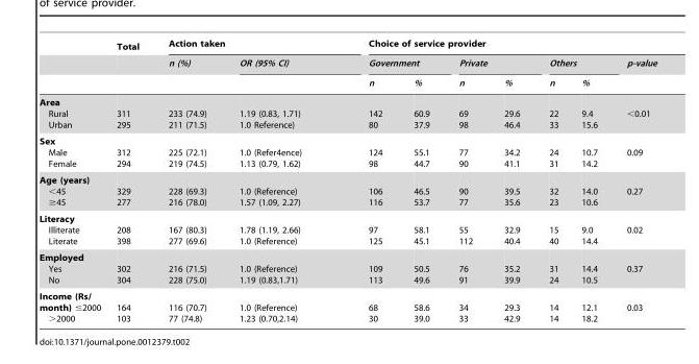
<table><thead><tr><td rowspan="3"></td><td rowspan="3">Total</td><td colspan="2">Action taken</td><td colspan="7">Choice of service provider</td></tr><tr><td rowspan="2">n (%)</td><td rowspan="2">OR (95% CI)</td><td colspan="2">Government</td><td colspan="2">Private</td><td colspan="2">Others</td><td rowspan="2">p-value</td></tr><tr><td>n</td><td>%</td><td>n</td><td>%</td><td>n</td><td>%</td></tr></thead><tbody><tr><td>Area Rural Urban</td><td>311 295</td><td>233 (74.9) 211 (71.5)</td><td>1.19 (0.83, 1.71) 1.0 Reference)</td><td>142 80</td><td>60.9 37.9</td><td>69 98</td><td>29.6 46.4</td><td>22 33</td><td>9.4 15.6</td><td>&lt;0.01</td></tr><tr><td>Sex Male Female</td><td>312 294</td><td>225 (72.1) 219 (74.5)</td><td>1.0 (Refer4ence) 1.13 (0.79, 1.62)</td><td>124 98</td><td>55.1 44.7</td><td>77 90</td><td>34.2 41.1</td><td>24 31</td><td>10.7 14.2</td><td>0.09</td></tr><tr><td>Age (years) &lt;45 ≥45</td><td>329 277</td><td>228 (69.3) 216 (78.0)</td><td>1.0 (Reference) 1.57 (1.09, 2.27)</td><td>106 116</td><td>46.5 53.7</td><td>90 77</td><td>39.5 35.6</td><td>32 23</td><td>14.0 10.6</td><td>0.27</td></tr><tr><td>Literacy Illiterate Literate</td><td>208 398</td><td>167 (80.3) 277 (69.6)</td><td>1.78 (1.19, 2.66) 1.0 (Reference)</td><td>97 125</td><td>58.1 45.1</td><td>55 112</td><td>32.9 40.4</td><td>15 40</td><td>9.0 14.4</td><td>0.02</td></tr><tr><td>Employed Yes No</td><td>302 304</td><td>216 (71.5) 228 (75.0)</td><td>1.0 (Reference) 1.19 (0.83,1.71)</td><td>109 113</td><td>50.5 49.6</td><td>76 91</td><td>35.2 39.9</td><td>31 24</td><td>14.4 10.5</td><td>0.37</td></tr><tr><td>Income (Rs/ month) ≤2000 &gt;2000</td><td>164 103</td><td>116 (70.7) 77 (74.8)</td><td>1.0 (Reference) 1.23 (0.70,2.14)</td><td>68 30</td><td>58.6 39.0</td><td>34 33</td><td>29.3 42.9</td><td>14 14</td><td>12.1 18.2</td><td>0.03</td></tr></tbody></table>